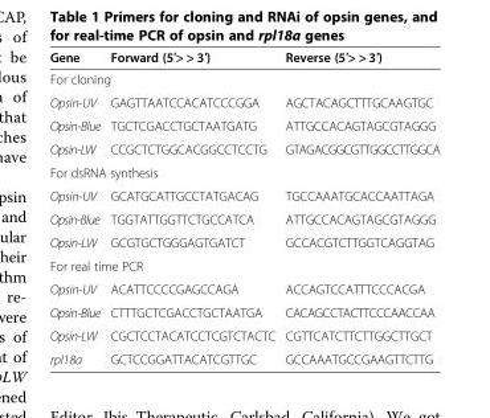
<table><thead><tr><td>Gene</td><td>Forward (5′&gt; &gt; 3′)</td><td>Reverse (5′&gt; &gt; 3′)</td></tr></thead><tbody><tr><td colspan="3">For cloning</td></tr><tr><td>Opsin-UV</td><td>GAGTTAATCCACATCCCGGA</td><td>AGCTACAGCTTTGCAAGTGC</td></tr><tr><td>Opsin-Blue</td><td>TGCTCGACCTGCTAATGATG</td><td>ATTGCCACAGTAGCGTAGGG</td></tr><tr><td>Opsin-LW</td><td>CCGCTCTGGCACGGCCTCCTG</td><td>GTAGACGGCGTTGGCCTTGGCA</td></tr><tr><td colspan="3">For dsRNA synthesis</td></tr><tr><td>Opsin-UV</td><td>GCATGCATTGCCTATGACAG</td><td>TGCCAAATGCACCAATTAGA</td></tr><tr><td>Opsin-Blue</td><td>TGGTATTGGTTCTGCCATCA</td><td>ATTGCCACAGTAGCGTAGGG</td></tr><tr><td>Opsin-LW</td><td>GCGTGCTGGGAGTGATCT</td><td>GCCACGTCTTGGTCAGGTAG</td></tr><tr><td colspan="3">For real time PCR</td></tr><tr><td>Opsin-UV</td><td>ACATTCCCCGAGCCAGA</td><td>ACCAGTCCATTTCCCACGA</td></tr><tr><td>Opsin-Blue</td><td>CTTTGCTCGACCTGCTAATGA</td><td>CACAGCCTACTTCCCAACCAA</td></tr><tr><td>Opsin-LW</td><td>CGCTCCTACATCCTCGTCTACTC</td><td>CGTTCATCTTCTTGGCTTGCT</td></tr><tr><td>rpl18a</td><td>GCTCCGGATTACATCGTTGC</td><td>GCCAAATGCCGAAGTTCTTG</td></tr></tbody></table>